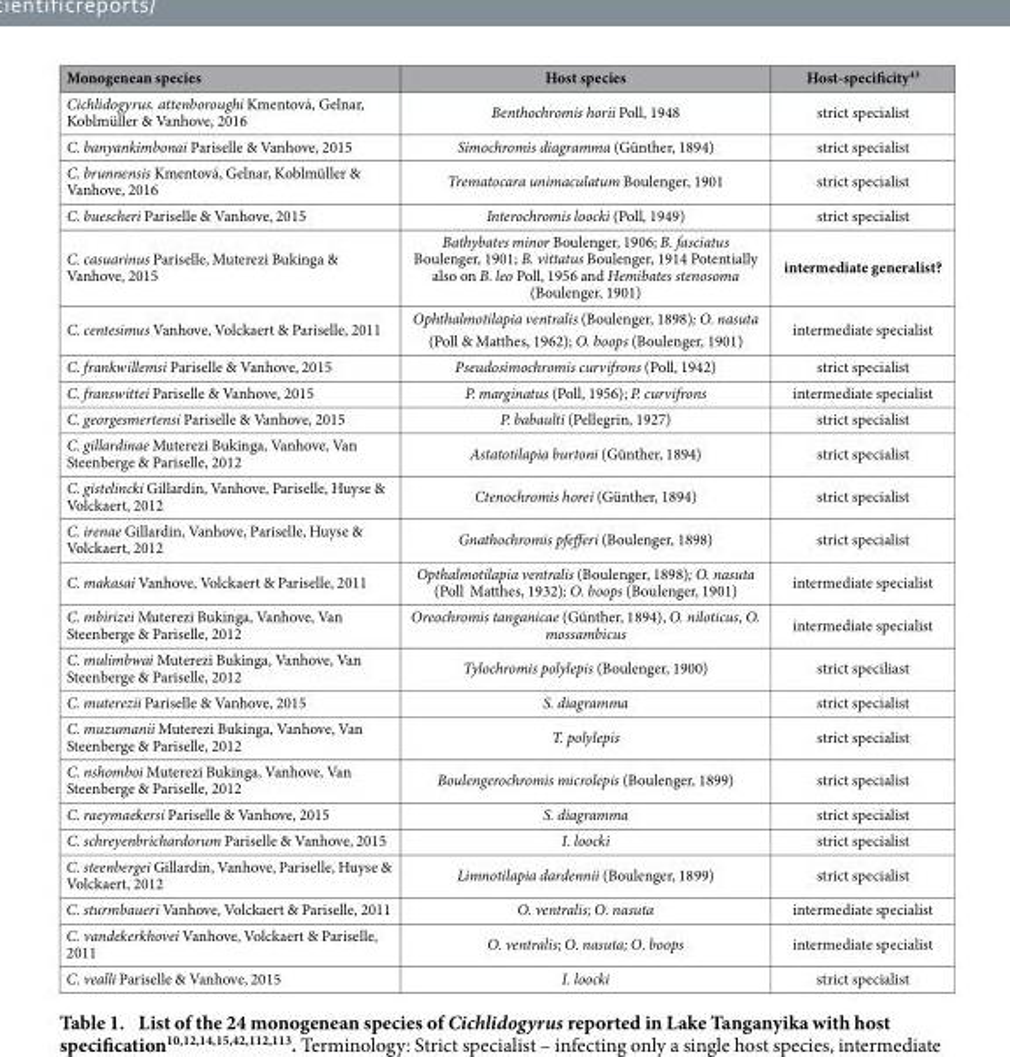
<table><thead><tr><td>Monogenean species</td><td>Host species</td><td>Host-specificity<sup>43</sup></td></tr></thead><tbody><tr><td>Cichlidogyrus. attenboroughi Kmentová, Gelnar, Koblmüller &amp; Vanhove, 2016</td><td>Benthochromis horii Poll, 1948</td><td>strict specialist</td></tr><tr><td>C. banyankimbonai Pariselle &amp; Vanhove, 2015</td><td>Simochromis diagramma (Günther, 1894)</td><td>strict specialist</td></tr><tr><td>C. brunnensis Kmentová, Gelnar, Koblmüller &amp; Vanhove, 2016</td><td>Trematocara unimaculatum Boulenger, 1901</td><td>strict specialist</td></tr><tr><td>C. buescheri Pariselle &amp; Vanhove, 2015</td><td>Interochromis loocki (Poll, 1949)</td><td>strict specialist</td></tr><tr><td>C. casuarinus Pariselle, Muterezi Bukinga &amp; Vanhove, 2015</td><td>Bathybates minor Boulenger, 1906; B. fasciatus Boulenger, 1901; B. vittatus Boulenger, 1914 Potentially also on B. leo Poll, 1956 and Hemibates stenosoma (Boulenger, 1901)</td><td>intermediate generalist?</td></tr><tr><td>C. centesimus Vanhove, Volckaert &amp; Pariselle, 2011</td><td>Ophthalmotilapia ventralis (Boulenger, 1898); O. nasuta (Poll &amp; Matthes, 1962); O. boops (Boulenger, 1901)</td><td>intermediate specialist</td></tr><tr><td>C. frankwillemsi Pariselle &amp; Vanhove, 2015</td><td>Pseudosimochromis curvifrons (Poll, 1942)</td><td>strict specialist</td></tr><tr><td>C. franswittei Pariselle &amp; Vanhove, 2015</td><td>P. marginatus (Poll, 1956); P. curvifrons</td><td>intermediate specialist</td></tr><tr><td>C. georgesmertensi Pariselle &amp; Vanhove, 2015</td><td>P. babaulti (Pellegrin, 1927)</td><td>strict specialist</td></tr><tr><td>C. gillardinae Muterezi Bukinga, Vanhove, Van Steenberge &amp; Pariselle, 2012</td><td>Astatotilapia burtoni (Günther, 1894)</td><td>strict specialist</td></tr><tr><td>C. gistelincki Gillardin, Vanhove, Pariselle, Huyse &amp; Volckaert, 2012</td><td>Ctenochromis horei (Günther, 1894)</td><td>strict specialist</td></tr><tr><td>C. irenae Gillardin, Vanhove, Pariselle, Huyse &amp; Volckaert, 2012</td><td>Gnathochromis pfefferi (Boulenger, 1898)</td><td>strict specialist</td></tr><tr><td>C. makasai Vanhove, Volckaert &amp; Pariselle, 2011</td><td>Opthalmotilapia ventralis (Boulenger, 1898); O. nasuta (Poll Matthes, 1932); O. boops (Boulenger, 1901)</td><td>intermediate specialist</td></tr><tr><td>C. mbirizei Muterezi Bukinga, Vanhove, Van Steenberge &amp; Pariselle, 2012</td><td>Oreochromis tanganicae (Günther, 1894), O. niloticus, O. mossambicus</td><td>intermediate specialist</td></tr><tr><td>C. mulimbwai Muterezi Bukinga, Vanhove, Van Steenberge &amp; Pariselle, 2012</td><td>Tylochromis polylepis (Boulenger, 1900)</td><td>strict speciliast</td></tr><tr><td>C. muterezii Pariselle &amp; Vanhove, 2015</td><td>S. diagramma</td><td>strict specialist</td></tr><tr><td>C. muzumanii Muterezi Bukinga, Vanhove, Van Steenberge &amp; Pariselle, 2012</td><td>T. polylepis</td><td>strict specialist</td></tr><tr><td>C. nshomboi Muterezi Bukinga, Vanhove, Van Steenberge &amp; Pariselle, 2012</td><td>Boulengerochromis microlepis (Boulenger, 1899)</td><td>strict specialist</td></tr><tr><td>C. raeymaekersi Pariselle &amp; Vanhove, 2015</td><td>S. diagramma</td><td>strict specialist</td></tr><tr><td>C. schreyenbrichardorum Pariselle &amp; Vanhove, 2015</td><td>I. loocki</td><td>strict specialist</td></tr><tr><td>C. steenbergei Gillardin, Vanhove, Pariselle, Huyse &amp; Volckaert, 2012</td><td>Limnotilapia dardennii (Boulenger, 1899)</td><td>strict specialist</td></tr><tr><td>C. sturmbaueri Vanhove, Volckaert &amp; Pariselle, 2011</td><td>O. ventralis; O. nasuta</td><td>intermediate specialist</td></tr><tr><td>C. vandekerkhovei Vanhove, Volckaert &amp; Pariselle, 2011</td><td>O. ventralis; O. nasuta; O. boops</td><td>intermediate specialist</td></tr><tr><td>C. vealli Pariselle &amp; Vanhove, 2015</td><td>I. loocki</td><td>strict specialist</td></tr></tbody></table>